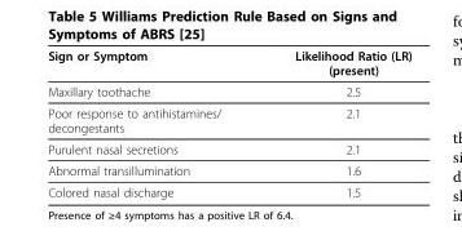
<table><thead><tr><td>Sign or Symptom</td><td>Likelihood Ratio (LR) (present)</td></tr></thead><tbody><tr><td>Maxillary toothache</td><td>2.5</td></tr><tr><td>Poor response to antihistamines/ decongestants</td><td>2.1</td></tr><tr><td>Purulent nasal secretions</td><td>2.1</td></tr><tr><td>Abnormal transillumination</td><td>1.6</td></tr><tr><td>Colored nasal discharge</td><td>1.5</td></tr></tbody></table>